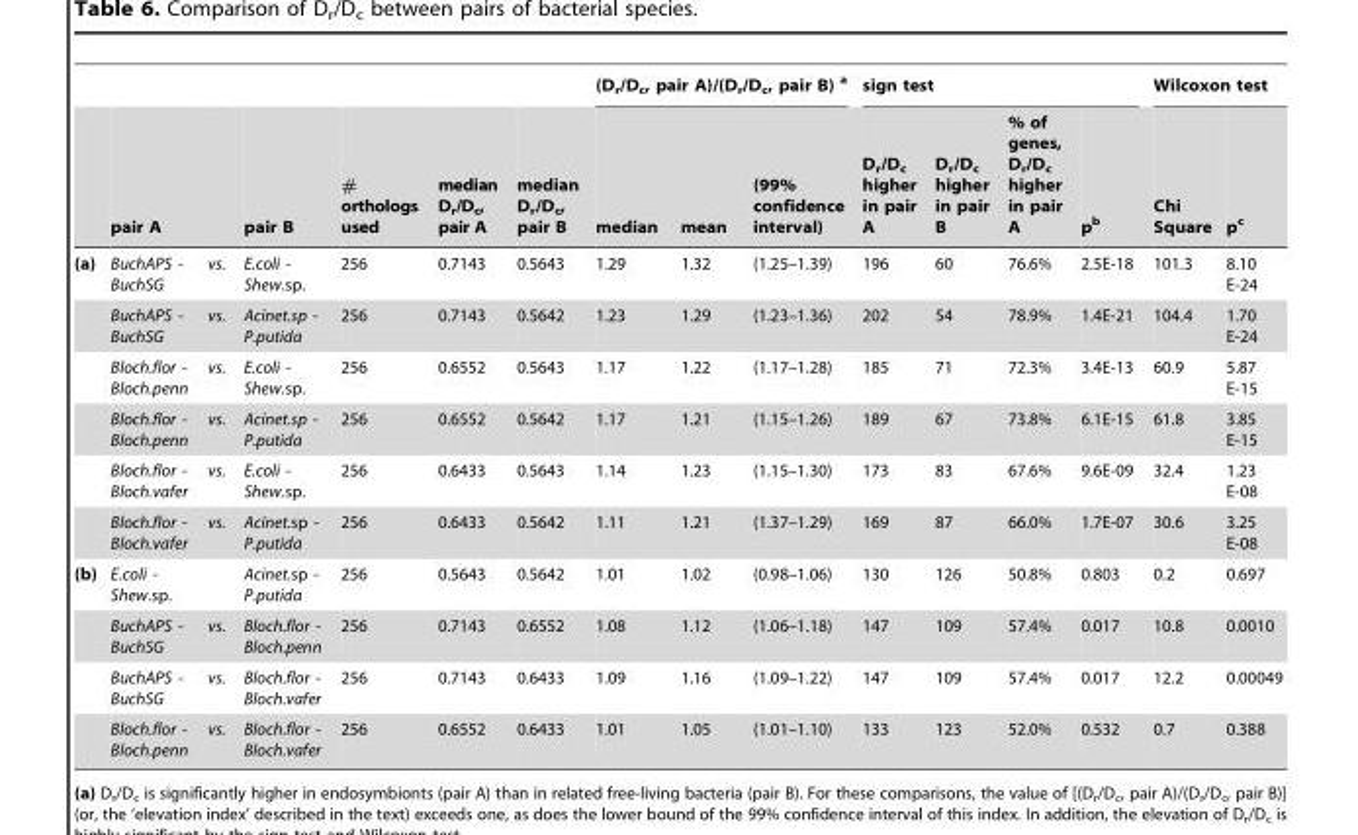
<table><thead><tr><td rowspan="2"></td><td rowspan="2">pair A</td><td rowspan="2"></td><td rowspan="2">pair B</td><td rowspan="2"># orthologs used</td><td rowspan="2">median D<sub>r</sub>/D<sub>c</sub>, pair A</td><td rowspan="2">median D<sub>r</sub>/D<sub>c</sub>, pair B</td><td colspan="3">(D<sub>r</sub>/D<sub>c</sub>, pair A)/(D<sub>r</sub>/D<sub>c</sub>, pair B) a</td><td colspan="4">sign test</td><td colspan="2">Wilcoxon test</td></tr><tr><td>median</td><td>mean</td><td>(99% confidence interval)</td><td>D<sub>r</sub>/D<sub>c</sub> higher in pair A</td><td>D<sub>r</sub>/D<sub>c</sub> higher in pair B</td><td>% of genes, D<sub>r</sub>/D<sub>c</sub> higher in pair A</td><td>p<sup>b</sup></td><td>Chi Square</td><td>p<sup>c</sup></td></tr></thead><tbody><tr><td rowspan="6">(a)</td><td>BuchAPS - BuchSG</td><td>vs.</td><td>E.coli - Shew.sp.</td><td>256</td><td>0.7143</td><td>0.5643</td><td>1.29</td><td>1.32</td><td>(1.25–1.39)</td><td>196</td><td>60</td><td>76.6%</td><td>2.5E-18</td><td>101.3</td><td>8.10 E-24</td></tr><tr><td>BuchAPS - BuchSG</td><td>vs.</td><td>Acinet.sp - P.putida</td><td>256</td><td>0.7143</td><td>0.5642</td><td>1.23</td><td>1.29</td><td>(1.23–1.36)</td><td>202</td><td>54</td><td>78.9%</td><td>1.4E-21</td><td>104.4</td><td>1.70 E-24</td></tr><tr><td>Bloch.flor - Bloch.penn</td><td>vs.</td><td>E.coli - Shew.sp.</td><td>256</td><td>0.6552</td><td>0.5643</td><td>1.17</td><td>1.22</td><td>(1.17–1.28)</td><td>185</td><td>71</td><td>72.3%</td><td>3.4E-13</td><td>60.9</td><td>5.87 E-15</td></tr><tr><td>Bloch.flor - Bloch.penn</td><td>vs.</td><td>Acinet.sp - P.putida</td><td>256</td><td>0.6552</td><td>0.5642</td><td>1.17</td><td>1.21</td><td>(1.15–1.26)</td><td>189</td><td>67</td><td>73.8%</td><td>6.1E-15</td><td>61.8</td><td>3.85 E-15</td></tr><tr><td>Bloch.flor - Bloch.vafer</td><td>vs.</td><td>E.coli - Shew.sp.</td><td>256</td><td>0.6433</td><td>0.5643</td><td>1.14</td><td>1.23</td><td>(1.15–1.30)</td><td>173</td><td>83</td><td>67.6%</td><td>9.6E-09</td><td>32.4</td><td>1.23 E-08</td></tr><tr><td>Bloch.flor - Bloch.vafer</td><td>vs.</td><td>Acinet.sp - P.putida</td><td>256</td><td>0.6433</td><td>0.5642</td><td>1.11</td><td>1.21</td><td>(1.37–1.29)</td><td>169</td><td>87</td><td>66.0%</td><td>1.7E-07</td><td>30.6</td><td>3.25 E-08</td></tr><tr><td rowspan="4">(b)</td><td>E.coli - Shew.sp.</td><td></td><td>Acinet.sp - P.putida</td><td>256</td><td>0.5643</td><td>0.5642</td><td>1.01</td><td>1.02</td><td>(0.98–1.06)</td><td>130</td><td>126</td><td>50.8%</td><td>0.803</td><td>0.2</td><td>0.697</td></tr><tr><td>BuchAPS - BuchSG</td><td>vs.</td><td>Bloch.flor - Bloch.penn</td><td>256</td><td>0.7143</td><td>0.6552</td><td>1.08</td><td>1.12</td><td>(1.06–1.18)</td><td>147</td><td>109</td><td>57.4%</td><td>0.017</td><td>10.8</td><td>0.0010</td></tr><tr><td>BuchAPS - BuchSG</td><td>vs.</td><td>Bloch.flor - Bloch.vafer</td><td>256</td><td>0.7143</td><td>0.6433</td><td>1.09</td><td>1.16</td><td>(1.09–1.22)</td><td>147</td><td>109</td><td>57.4%</td><td>0.017</td><td>12.2</td><td>0.00049</td></tr><tr><td>Bloch.flor - Bloch.penn</td><td>vs.</td><td>Bloch.flor - Bloch.vafer</td><td>256</td><td>0.6552</td><td>0.6433</td><td>1.01</td><td>1.05</td><td>(1.01–1.10)</td><td>133</td><td>123</td><td>52.0%</td><td>0.532</td><td>0.7</td><td>0.388</td></tr></tbody></table>